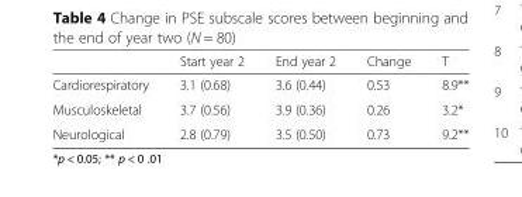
<table><thead><tr><td></td><td>Start year 2</td><td>End year 2</td><td>Change</td><td>T</td></tr></thead><tbody><tr><td>Cardiorespiratory</td><td>3.1 (0.68)</td><td>3.6 (0.44)</td><td>0.53</td><td>8.9**</td></tr><tr><td>Musculoskeletal</td><td>3.7 (0.56)</td><td>3.9 (0.36)</td><td>0.26</td><td>3.2*</td></tr><tr><td>Neurological</td><td>2.8 (0.79)</td><td>3.5 (0.50)</td><td>0.73</td><td>9.2**</td></tr></tbody></table>